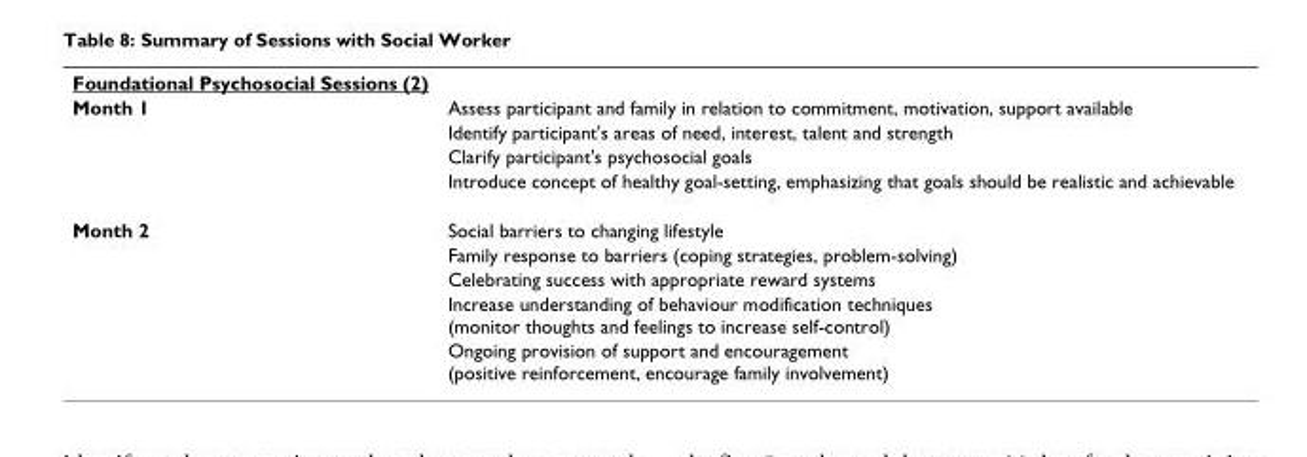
<table><tbody><tr><td colspan="2">Foundational Psychosocial Sessions (2)</td></tr><tr><td rowspan="4">Month 1</td><td>Assess participant and family in relation to commitment, motivation, support available</td></tr><tr><td>Identify participant&#x27;s areas of need, interest, talent and strength</td></tr><tr><td>Clarify participant&#x27;s psychosocial goals</td></tr><tr><td>Introduce concept of healthy goal-setting, emphasizing that goals should be realistic and achievable</td></tr><tr><td rowspan="5">Month 2</td><td>Social barriers to changing lifestyle</td></tr><tr><td>Family response to barriers (coping strategies, problem-solving)</td></tr><tr><td>Celebrating success with appropriate reward systems</td></tr><tr><td>Increase understanding of behaviour modification techniques (monitor thoughts and feelings to increase self-control)</td></tr><tr><td>Ongoing provision of support and encouragement (positive reinforcement, encourage family involvement)</td></tr></tbody></table>